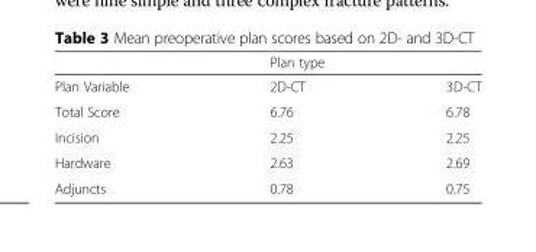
<table><thead><tr><td rowspan="2">Plan Variable</td><td colspan="2">Plan type</td></tr><tr><td>2D-CT</td><td>3D-CT</td></tr></thead><tbody><tr><td>Total Score</td><td>6.76</td><td>6.78</td></tr><tr><td>Incision</td><td>2.25</td><td>2.25</td></tr><tr><td>Hardware</td><td>2.63</td><td>2.69</td></tr><tr><td>Adjuncts</td><td>0.78</td><td>0.75</td></tr></tbody></table>